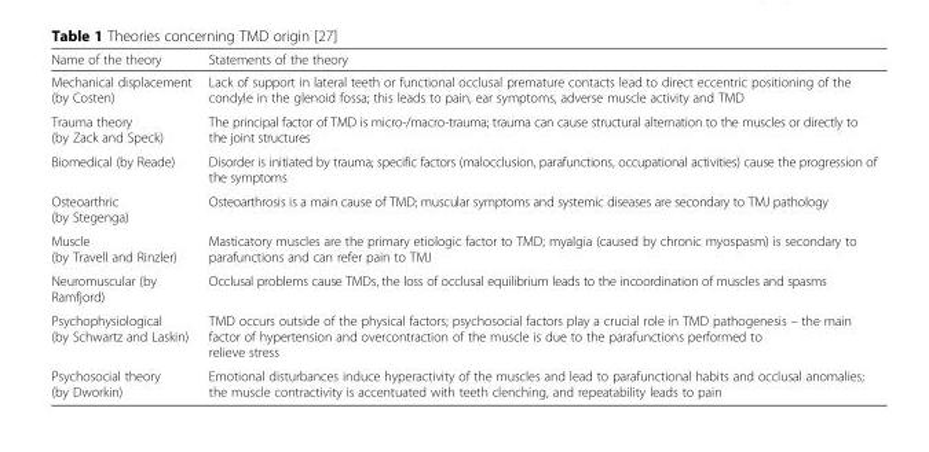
<table><thead><tr><td>Name of the theory</td><td>Statements of the theory</td></tr></thead><tbody><tr><td>Mechanical displacement (by Costen)</td><td>Lack of support in lateral teeth or functional occlusal premature contacts lead to direct eccentric positioning of the condyle in the glenoid fossa; this leads to pain, ear symptoms, adverse muscle activity and TMD</td></tr><tr><td>Trauma theory (by Zack and Speck)</td><td>The principal factor of TMD is micro-/macro-trauma; trauma can cause structural alternation to the muscles or directly to the joint structures</td></tr><tr><td>Biomedical (by Reade)</td><td>Disorder is initiated by trauma; specific factors (malocclusion, parafunctions, occupational activities) cause the progression of the symptoms</td></tr><tr><td>Osteoarthric (by Stegenga)</td><td>Osteoarthrosis is a main cause of TMD; muscular symptoms and systemic diseases are secondary to TMJ pathology</td></tr><tr><td>Muscle (by Travell and Rinzler)</td><td>Masticatory muscles are the primary etiologic factor to TMD; myalgia (caused by chronic myospasm) is secondary to parafunctions and can refer pain to TMJ</td></tr><tr><td>Neuromuscular (by Ramfjord)</td><td>Occlusal problems cause TMDs, the loss of occlusal equilibrium leads to the incoordination of muscles and spasms</td></tr><tr><td>Psychophysiological (by Schwartz and Laskin)</td><td>TMD occurs outside of the physical factors; psychosocial factors play a crucial role in TMD pathogenesis – the main factor of hypertension and overcontraction of the muscle is due to the parafunctions performed to relieve stress</td></tr><tr><td>Psychosocial theory (by Dworkin)</td><td>Emotional disturbances induce hyperactivity of the muscles and lead to parafunctional habits and occlusal anomalies; the muscle contractivity is accentuated with teeth clenching, and repeatability leads to pain</td></tr></tbody></table>